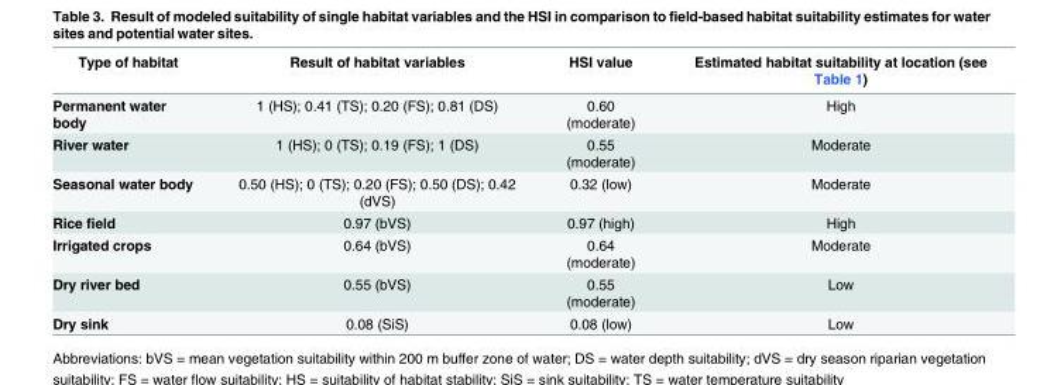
<table><thead><tr><td>Type of habitat</td><td>Result of habitat variables</td><td>HSI value</td><td>Estimated habitat suitability at location (see Table 1)</td></tr></thead><tbody><tr><td>Permanent water body</td><td>1 (HS); 0.41 (TS); 0.20 (FS); 0.81 (DS)</td><td>0.60 (moderate)</td><td>High</td></tr><tr><td>River water</td><td>1 (HS); 0 (TS); 0.19 (FS); 1 (DS)</td><td>0.55 (moderate)</td><td>Moderate</td></tr><tr><td>Seasonal water body</td><td>0.50 (HS); 0 (TS); 0.20 (FS); 0.50 (DS); 0.42 (dVS)</td><td>0.32 (low)</td><td>Moderate</td></tr><tr><td>Rice field</td><td>0.97 (bVS)</td><td>0.97 (high)</td><td>High</td></tr><tr><td>Irrigated crops</td><td>0.64 (bVS)</td><td>0.64 (moderate)</td><td>Moderate</td></tr><tr><td>Dry river bed</td><td>0.55 (bVS)</td><td>0.55 (moderate)</td><td>Low</td></tr><tr><td>Dry sink</td><td>0.08 (SiS)</td><td>0.08 (low)</td><td>Low</td></tr></tbody></table>